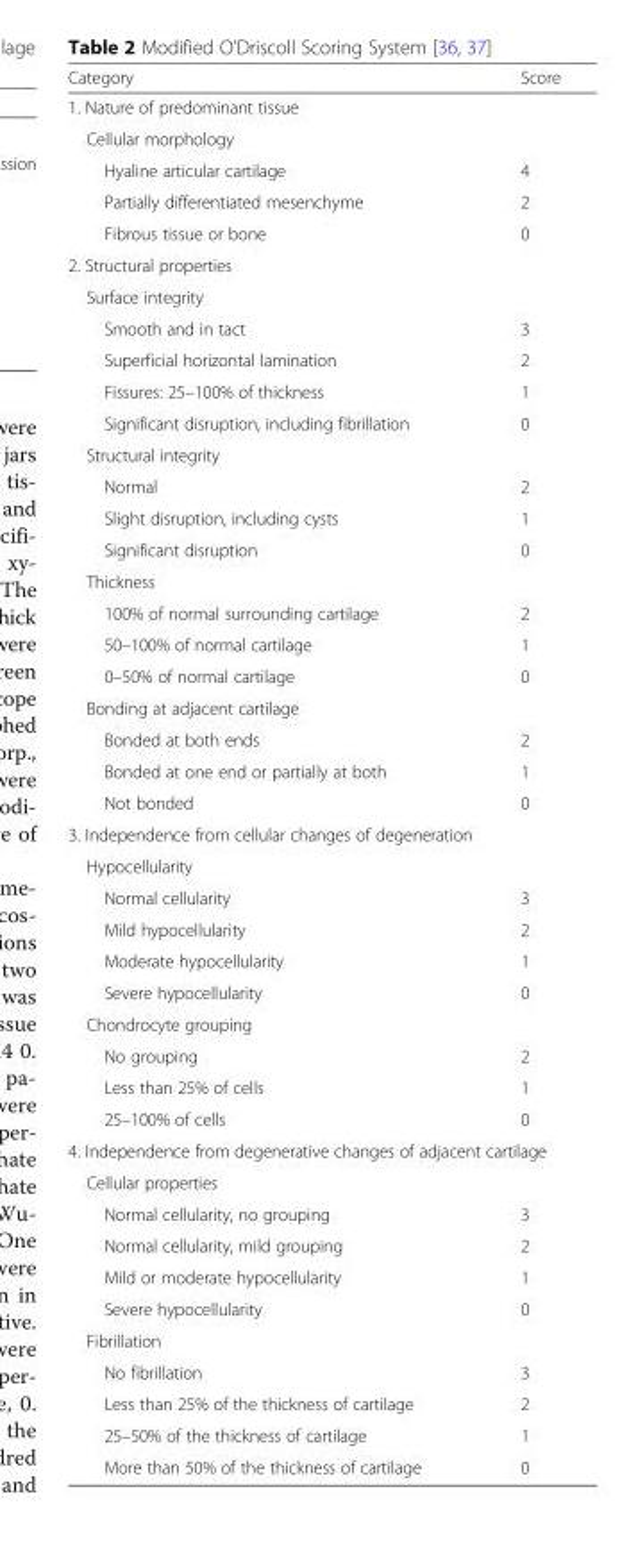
<table><thead><tr><td>Category</td><td>Score</td></tr></thead><tbody><tr><td colspan="2">1. Nature of predominant tissue</td></tr><tr><td colspan="2">Cellular morphology</td></tr><tr><td>Hyaline articular cartilage</td><td>4</td></tr><tr><td>Partially differentiated mesenchyme</td><td>2</td></tr><tr><td>Fibrous tissue or bone</td><td>0</td></tr><tr><td colspan="2">2. Structural properties</td></tr><tr><td colspan="2">Surface integrity</td></tr><tr><td>Smooth and in tact</td><td>3</td></tr><tr><td>Superficial horizontal lamination</td><td>2</td></tr><tr><td>Fissures: 25–100% of thickness</td><td>1</td></tr><tr><td>Significant disruption, including fibrillation</td><td>0</td></tr><tr><td colspan="2">Structural integrity</td></tr><tr><td>Normal</td><td>2</td></tr><tr><td>Slight disruption, including cysts</td><td>1</td></tr><tr><td>Significant disruption</td><td>0</td></tr><tr><td colspan="2">Thickness</td></tr><tr><td>100% of normal surrounding cartilage</td><td>2</td></tr><tr><td>50–100% of normal cartilage</td><td>1</td></tr><tr><td>0–50% of normal cartilage</td><td>0</td></tr><tr><td colspan="2">Bonding at adjacent cartilage</td></tr><tr><td>Bonded at both ends</td><td>2</td></tr><tr><td>Bonded at one end or partially at both</td><td>1</td></tr><tr><td>Not bonded</td><td>0</td></tr><tr><td colspan="2">3. Independence from cellular changes of degeneration</td></tr><tr><td colspan="2">Hypocellularity</td></tr><tr><td>Normal cellularity</td><td>3</td></tr><tr><td>Mild hypocellularity</td><td>2</td></tr><tr><td>Moderate hypocellularity</td><td>1</td></tr><tr><td>Severe hypocellularity</td><td>0</td></tr><tr><td colspan="2">Chondrocyte grouping</td></tr><tr><td>No grouping</td><td>2</td></tr><tr><td>Less than 25% of cells</td><td>1</td></tr><tr><td>25–100% of cells</td><td>0</td></tr><tr><td colspan="2">4. Independence from degenerative changes of adjacent cartilage</td></tr><tr><td colspan="2">Cellular properties</td></tr><tr><td>Normal cellularity, no grouping</td><td>3</td></tr><tr><td>Normal cellularity, mild grouping</td><td>2</td></tr><tr><td>Mild or moderate hypocellularity</td><td>1</td></tr><tr><td>Severe hypocellularity</td><td>0</td></tr><tr><td colspan="2">Fibrillation</td></tr><tr><td>No fibrillation</td><td>3</td></tr><tr><td>Less than 25% of the thickness of cartilage</td><td>2</td></tr><tr><td>25–50% of the thickness of cartilage</td><td>1</td></tr><tr><td>More than 50% of the thickness of cartilage</td><td>0</td></tr></tbody></table>